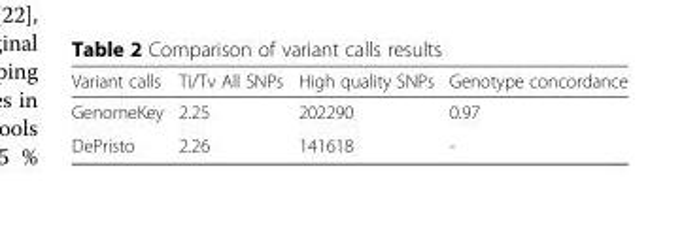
<table><thead><tr><td>Variant calls</td><td>Ti/Tv All SNPs</td><td>High quality SNPs</td><td>Genotype concordance</td></tr></thead><tbody><tr><td>GenomeKey</td><td>2.25</td><td>202290</td><td>0.97</td></tr><tr><td>DePristo</td><td>2.26</td><td>141618</td><td>-</td></tr></tbody></table>